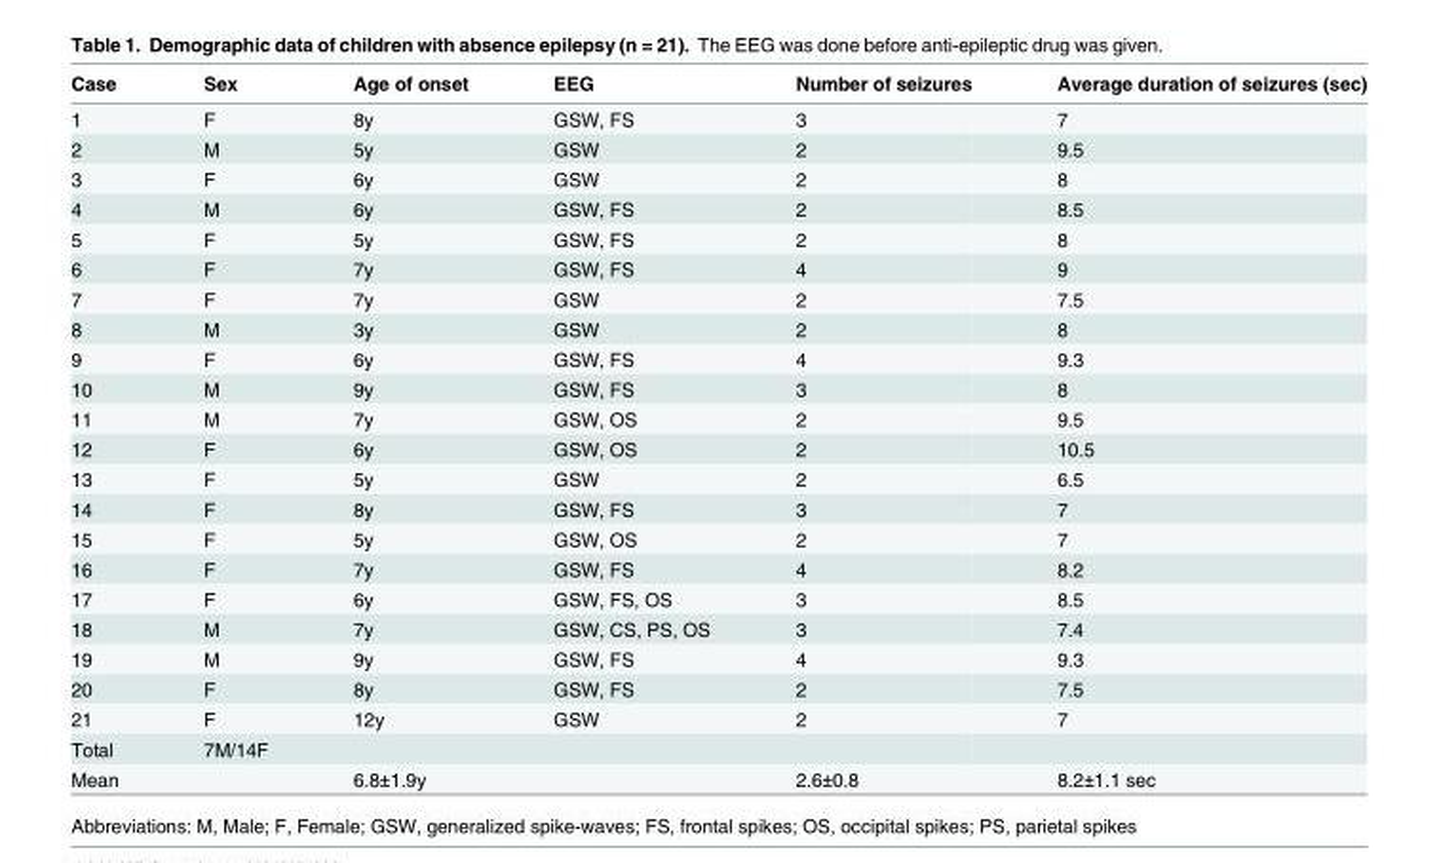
<table><thead><tr><td>Case</td><td>Sex</td><td>Age of onset</td><td>EEG</td><td>Number of seizures</td><td>Average duration of seizures (sec)</td></tr></thead><tbody><tr><td>1</td><td>F</td><td>8y</td><td>GSW, FS</td><td>3</td><td>7</td></tr><tr><td>2</td><td>M</td><td>5y</td><td>GSW</td><td>2</td><td>9.5</td></tr><tr><td>3</td><td>F</td><td>6y</td><td>GSW</td><td>2</td><td>8</td></tr><tr><td>4</td><td>M</td><td>6y</td><td>GSW, FS</td><td>2</td><td>8.5</td></tr><tr><td>5</td><td>F</td><td>5y</td><td>GSW, FS</td><td>2</td><td>8</td></tr><tr><td>6</td><td>F</td><td>7y</td><td>GSW, FS</td><td>4</td><td>9</td></tr><tr><td>7</td><td>F</td><td>7y</td><td>GSW</td><td>2</td><td>7.5</td></tr><tr><td>8</td><td>M</td><td>3y</td><td>GSW</td><td>2</td><td>8</td></tr><tr><td>9</td><td>F</td><td>6y</td><td>GSW, FS</td><td>4</td><td>9.3</td></tr><tr><td>10</td><td>M</td><td>9y</td><td>GSW, FS</td><td>3</td><td>8</td></tr><tr><td>11</td><td>M</td><td>7y</td><td>GSW, OS</td><td>2</td><td>9.5</td></tr><tr><td>12</td><td>F</td><td>6y</td><td>GSW, OS</td><td>2</td><td>10.5</td></tr><tr><td>13</td><td>F</td><td>5y</td><td>GSW</td><td>2</td><td>6.5</td></tr><tr><td>14</td><td>F</td><td>8y</td><td>GSW, FS</td><td>3</td><td>7</td></tr><tr><td>15</td><td>F</td><td>5y</td><td>GSW, OS</td><td>2</td><td>7</td></tr><tr><td>16</td><td>F</td><td>7y</td><td>GSW, FS</td><td>4</td><td>8.2</td></tr><tr><td>17</td><td>F</td><td>6y</td><td>GSW, FS, OS</td><td>3</td><td>8.5</td></tr><tr><td>18</td><td>M</td><td>7y</td><td>GSW, CS, PS, OS</td><td>3</td><td>7.4</td></tr><tr><td>19</td><td>M</td><td>9y</td><td>GSW, FS</td><td>4</td><td>9.3</td></tr><tr><td>20</td><td>F</td><td>8y</td><td>GSW, FS</td><td>2</td><td>7.5</td></tr><tr><td>21</td><td>F</td><td>12y</td><td>GSW</td><td>2</td><td>7</td></tr><tr><td>Total</td><td>7M/14F</td><td></td><td></td><td></td><td></td></tr><tr><td>Mean</td><td></td><td>6.8±1.9y</td><td></td><td>2.6±0.8</td><td>8.2±1.1 sec</td></tr></tbody></table>